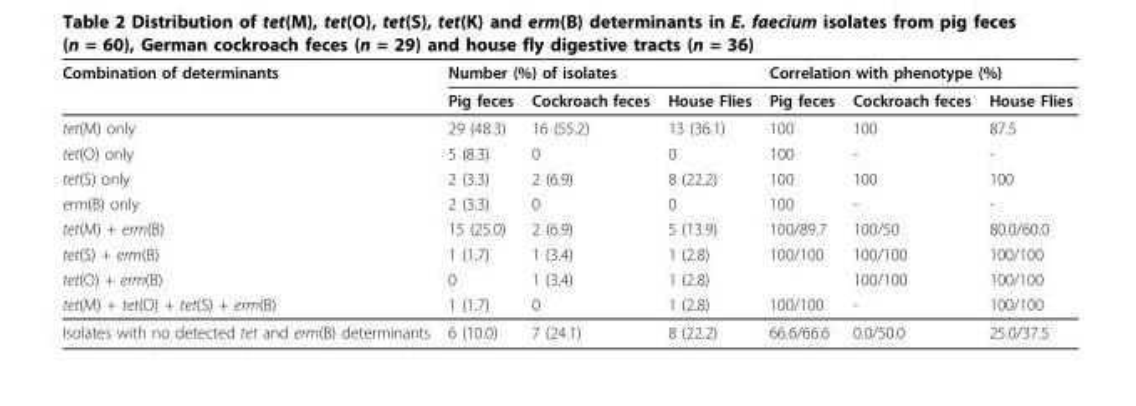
<table><thead><tr><td rowspan="2">Combination of determinants</td><td colspan="3">Number (%) of isolates</td><td colspan="3">Correlation with phenotype (%)</td></tr><tr><td>Pig feces</td><td>Cockroach feces</td><td>House Flies</td><td>Pig feces</td><td>Cockroach feces</td><td>House Flies</td></tr></thead><tbody><tr><td>tet(M) only</td><td>29 (48.3)</td><td>16 (55.2)</td><td>13 (36.1)</td><td>100</td><td>100</td><td>87.5</td></tr><tr><td>tet(O) only</td><td>5 (8.3)</td><td>0</td><td>0</td><td>100</td><td>-</td><td>-</td></tr><tr><td>tet(S) only</td><td>2 (3.3)</td><td>2 (6.9)</td><td>8 (22.2)</td><td>100</td><td>100</td><td>100</td></tr><tr><td>erm(B) only</td><td>2 (3.3)</td><td>0</td><td>0</td><td>100</td><td>-</td><td>-</td></tr><tr><td>tet(M) + erm(B)</td><td>15 (25.0)</td><td>2 (6.9)</td><td>5 (13.9)</td><td>100/89.7</td><td>100/50</td><td>80.0/60.0</td></tr><tr><td>tet(S) + erm(B)</td><td>1 (1.7)</td><td>1 (3.4)</td><td>1 (2.8)</td><td>100/100</td><td>100/100</td><td>100/100</td></tr><tr><td>tet(O) + erm(B)</td><td>0</td><td>1 (3.4)</td><td>1 (2.8)</td><td></td><td>100/100</td><td>100/100</td></tr><tr><td>tet(M) + tet(O) + tet(S) + erm(B)</td><td>1 (1.7)</td><td>0</td><td>1 (2.8)</td><td>100/100</td><td>-</td><td>100/100</td></tr><tr><td>Isolates with no detected tet and erm(B) determinants</td><td>6 (10.0)</td><td>7 (24.1)</td><td>8 (22.2)</td><td>66.6/66.6</td><td>0.0/50.0</td><td>25.0/37.5</td></tr></tbody></table>